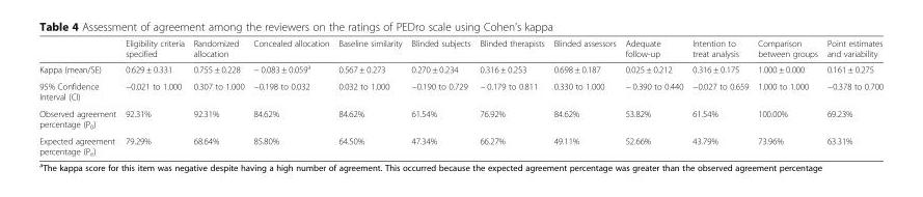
<table><thead><tr><td></td><td>Eligibility criteria specified</td><td>Randomized allocation</td><td>Concealed allocation</td><td>Baseline similarity</td><td>Blinded subjects</td><td>Blinded therapists</td><td>Blinded assessors</td><td>Adequate follow-up</td><td>Intention to treat analysis</td><td>Comparison between groups</td><td>Point estimates and variability</td></tr></thead><tbody><tr><td>Kappa (mean/SE)</td><td>0.629 ± 0.331</td><td>0.755 ± 0.228</td><td>− 0.083 ± 0.059<sup>a</sup></td><td>0.567 ± 0.273</td><td>0.270 ± 0.234</td><td>0.316 ± 0.253</td><td>0.698 ± 0.187</td><td>0.025 ± 0.212</td><td>0.316 ± 0.175</td><td>1.000 ± 0.000</td><td>0.161 ± 0.275</td></tr><tr><td>95% Confidence Interval (CI)</td><td>−0.021 to 1.000</td><td>0.307 to 1.000</td><td>−0.198 to 0.032</td><td>0.032 to 1.000</td><td>−0.190 to 0.729</td><td>− 0.179 to 0.811</td><td>0.330 to 1.000</td><td>− 0.390 to 0.440</td><td>−0.027 to 0.659</td><td>1.000 to 1.000</td><td>−0.378 to 0.700</td></tr><tr><td>Observed agreement percentage (P<sub>0</sub>)</td><td>92.31%</td><td>92.31%</td><td>84.62%</td><td>84.62%</td><td>61.54%</td><td>76.92%</td><td>84.62%</td><td>53.82%</td><td>61.54%</td><td>100.00%</td><td>69.23%</td></tr><tr><td>Expected agreement percentage (P<sub>e</sub>)</td><td>79.29%</td><td>68.64%</td><td>85.80%</td><td>64.50%</td><td>47.34%</td><td>66.27%</td><td>49.11%</td><td>52.66%</td><td>43.79%</td><td>73.96%</td><td>63.31%</td></tr></tbody></table>